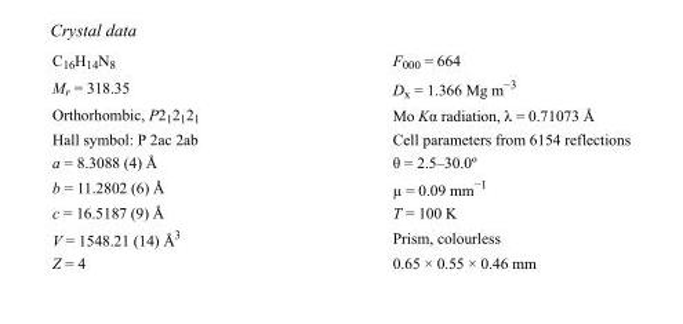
<table><tbody><tr><td>C<sub>16</sub>H<sub>14</sub>N<sub>8</sub></td><td>F000 = 664</td></tr><tr><td>M<sub>r</sub> = 318.35</td><td>D<sub>x</sub> = 1.366 Mg m<sup>−3</sup></td></tr><tr><td>Orthorhombic, P2<sub>1</sub>2<sub>1</sub>2<sub>1</sub></td><td>Mo Kα radiation, λ = 0.71073 Å</td></tr><tr><td>Hall symbol: P 2ac 2ab</td><td>Cell parameters from 6154 reflections</td></tr><tr><td>a = 8.3088 (4) Å</td><td>θ = 2.5–30.0º</td></tr><tr><td>b = 11.2802 (6) Å</td><td>µ = 0.09 mm<sup>−1</sup></td></tr><tr><td>c = 16.5187 (9) Å</td><td>T = 100 K</td></tr><tr><td>V = 1548.21 (14) Å<sup>3</sup></td><td>Prism, colourless</td></tr><tr><td>Z = 4</td><td>0.65 × 0.55 × 0.46 mm</td></tr></tbody></table>